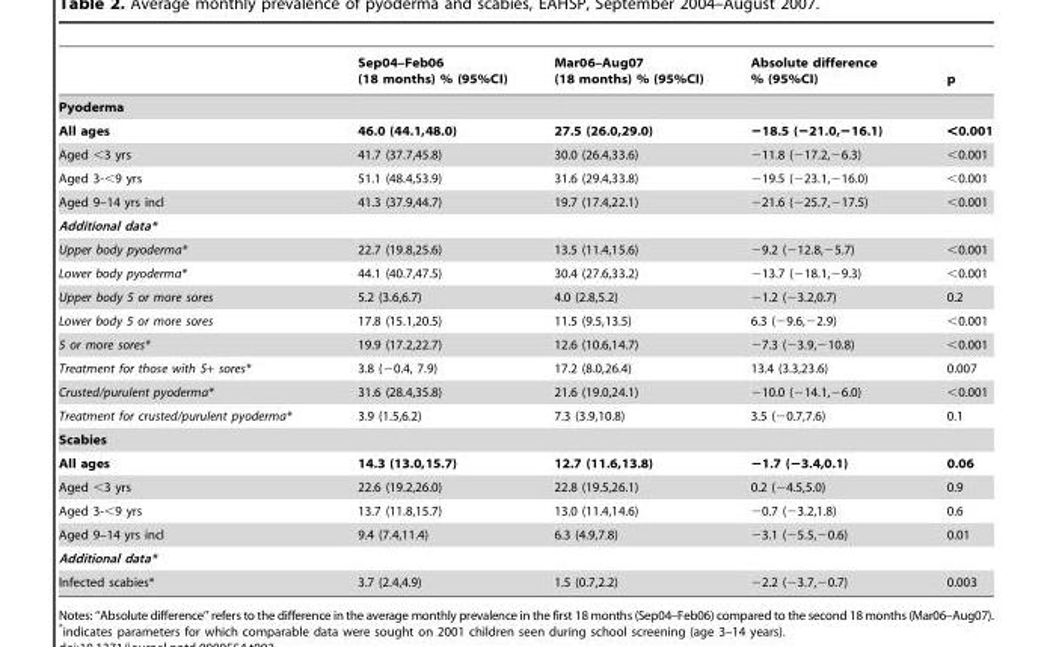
<table><thead><tr><td></td><td>Sep04–Feb06 (18 months) % (95%CI)</td><td>Mar06–Aug07 (18 months) % (95%CI)</td><td>Absolute difference % (95%CI)</td><td>p</td></tr></thead><tbody><tr><td colspan="5">Pyoderma</td></tr><tr><td>All ages</td><td>46.0 (44.1,48.0)</td><td>27.5 (26.0,29.0)</td><td>−18.5 (−21.0,−16.1)</td><td>&lt;0.001</td></tr><tr><td>Aged &lt;3 yrs</td><td>41.7 (37.7,45.8)</td><td>30.0 (26.4,33.6)</td><td>−11.8 (−17.2,−6.3)</td><td>&lt;0.001</td></tr><tr><td>Aged 3-&lt;9 yrs</td><td>51.1 (48.4,53.9)</td><td>31.6 (29.4,33.8)</td><td>−19.5 (−23.1,−16.0)</td><td>&lt;0.001</td></tr><tr><td>Aged 9–14 yrs incl</td><td>41.3 (37.9,44.7)</td><td>19.7 (17.4,22.1)</td><td>−21.6 (−25.7,−17.5)</td><td>&lt;0.001</td></tr><tr><td colspan="5">Additional data*</td></tr><tr><td>Upper body pyoderma*</td><td>22.7 (19.8,25.6)</td><td>13.5 (11.4,15.6)</td><td>−9.2 (−12.8,−5.7)</td><td>&lt;0.001</td></tr><tr><td>Lower body pyoderma*</td><td>44.1 (40.7,47.5)</td><td>30.4 (27.6,33.2)</td><td>−13.7 (−18.1,−9.3)</td><td>&lt;0.001</td></tr><tr><td>Upper body 5 or more sores</td><td>5.2 (3.6,6.7)</td><td>4.0 (2.8,5.2)</td><td>−1.2 (−3.2,0.7)</td><td>0.2</td></tr><tr><td>Lower body 5 or more sores</td><td>17.8 (15.1,20.5)</td><td>11.5 (9.5,13.5)</td><td>6.3 (−9.6,−2.9)</td><td>&lt;0.001</td></tr><tr><td>5 or more sores*</td><td>19.9 (17.2,22.7)</td><td>12.6 (10.6,14.7)</td><td>−7.3 (−3.9,−10.8)</td><td>&lt;0.001</td></tr><tr><td>Treatment for those with 5+ sores*</td><td>3.8 (−0.4, 7.9)</td><td>17.2 (8.0,26.4)</td><td>13.4 (3.3,23.6)</td><td>0.007</td></tr><tr><td>Crusted/purulent pyoderma*</td><td>31.6 (28.4,35.8)</td><td>21.6 (19.0,24.1)</td><td>−10.0 (−14.1,−6.0)</td><td>&lt;0.001</td></tr><tr><td>Treatment for crusted/purulent pyoderma*</td><td>3.9 (1.5,6.2)</td><td>7.3 (3.9,10.8)</td><td>3.5 (−0.7,7.6)</td><td>0.1</td></tr><tr><td colspan="5">Scabies</td></tr><tr><td>All ages</td><td>14.3 (13.0,15.7)</td><td>12.7 (11.6,13.8)</td><td>−1.7 (−3.4,0.1)</td><td>0.06</td></tr><tr><td>Aged &lt;3 yrs</td><td>22.6 (19.2,26.0)</td><td>22.8 (19.5,26.1)</td><td>0.2 (−4.5,5.0)</td><td>0.9</td></tr><tr><td>Aged 3-&lt;9 yrs</td><td>13.7 (11.8,15.7)</td><td>13.0 (11.4,14.6)</td><td>−0.7 (−3.2,1.8)</td><td>0.6</td></tr><tr><td>Aged 9–14 yrs incl</td><td>9.4 (7.4,11.4)</td><td>6.3 (4.9,7.8)</td><td>−3.1 (−5.5,−0.6)</td><td>0.01</td></tr><tr><td colspan="5">Additional data*</td></tr><tr><td>Infected scabies*</td><td>3.7 (2.4,4.9)</td><td>1.5 (0.7,2.2)</td><td>−2.2 (−3.7,−0.7)</td><td>0.003</td></tr></tbody></table>